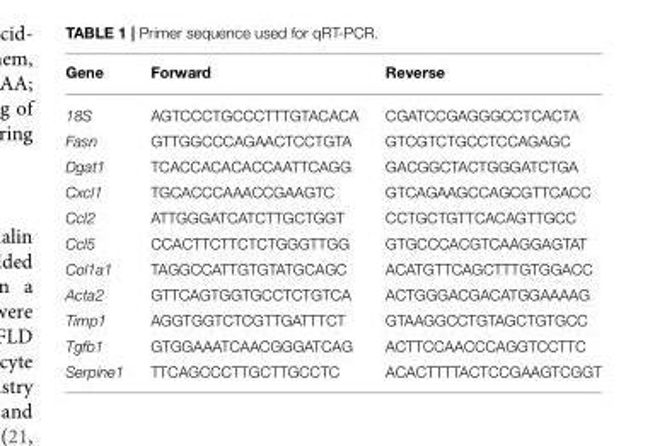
<table><thead><tr><td>Gene</td><td>Forward</td><td>Reverse</td></tr></thead><tbody><tr><td>18S</td><td>AGTCCCTGCCCTTTGTACACA</td><td>CGATCCGAGGGCCTCACTA</td></tr><tr><td>Fasn</td><td>GTTGGCCCAGAACTCCTGTA</td><td>GTCGTCTGCCTCCAGAGC</td></tr><tr><td>Dgat1</td><td>TCACCACACACCAATTCAGG</td><td>GACGGCTACTGGGATCTGA</td></tr><tr><td>Cxcl1</td><td>TGCACCCAAACCGAAGTC</td><td>GTCAGAAGCCAGCGTTCACC</td></tr><tr><td>Ccl2</td><td>ATTGGGATCATCTTGCTGGT</td><td>CCTGCTGTTCACAGTTGCC</td></tr><tr><td>Ccl5</td><td>CCACTTCTTCTCTGGGTTGG</td><td>GTGCCCACGTCAAGGAGTAT</td></tr><tr><td>Col1a1</td><td>TAGGCCATTGTGTATGCAGC</td><td>ACATGTTCAGCTTTGTGGACC</td></tr><tr><td>Acta2</td><td>GTTCAGTGGTGCCTCTGTCA</td><td>ACTGGGACGACATGGAAAAG</td></tr><tr><td>Timp1</td><td>AGGTGGTCTCGTTGATTTCT</td><td>GTAAGGCCTGTAGCTGTGCC</td></tr><tr><td>Tgfb1</td><td>GTGGAAATCAACGGGATCAG</td><td>ACTTCCAACCCAGGTCCTTC</td></tr><tr><td>Serpine1</td><td>TTCAGCCCTTGCTTGCCTC</td><td>ACACTTTTACTCCGAAGTCGGT</td></tr></tbody></table>